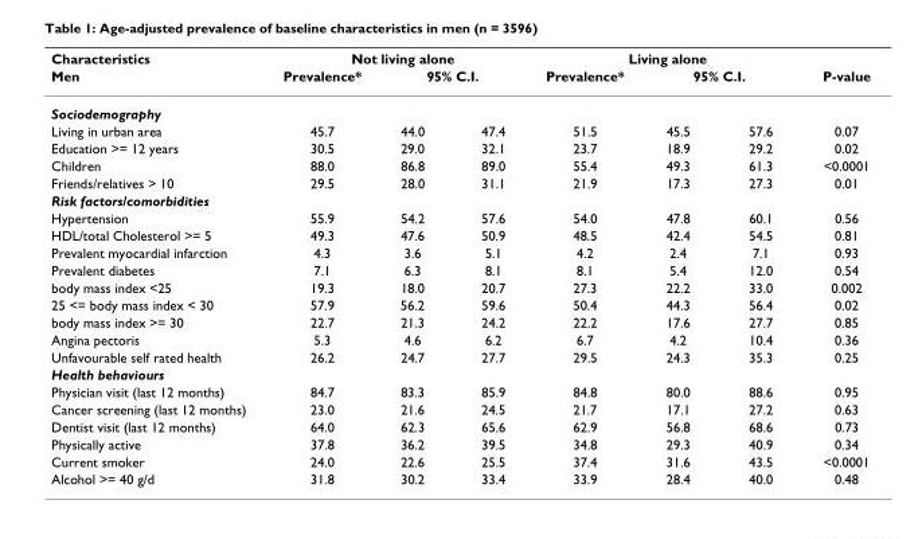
<table><thead><tr><td rowspan="3">Characteristics Men Sociodemography</td><td colspan="3">Not living alone</td><td colspan="3">Living alone</td><td rowspan="3">P-value</td></tr><tr><td rowspan="2">Prevalence*</td><td colspan="2">95% C.I.</td><td rowspan="2">Prevalence*</td><td colspan="2">95% C.I.</td></tr><tr><td></td><td></td><td></td><td></td></tr></thead><tbody><tr><td>Living in urban area</td><td>45.7</td><td>44.0</td><td>47.4</td><td>51.5</td><td>45.5</td><td>57.6</td><td>0.07</td></tr><tr><td>Education &gt;= 12 years</td><td>30.5</td><td>29.0</td><td>32.1</td><td>23.7</td><td>18.9</td><td>29.2</td><td>0.02</td></tr><tr><td>Children</td><td>88.0</td><td>86.8</td><td>89.0</td><td>55.4</td><td>49.3</td><td>61.3</td><td>&lt;0.0001</td></tr><tr><td>Friends/relatives &gt; 10</td><td>29.5</td><td>28.0</td><td>31.1</td><td>21.9</td><td>17.3</td><td>27.3</td><td>0.01</td></tr><tr><td colspan="8">Risk factors/comorbidities</td></tr><tr><td>Hypertension</td><td>55.9</td><td>54.2</td><td>57.6</td><td>54.0</td><td>47.8</td><td>60.1</td><td>0.56</td></tr><tr><td>HDL/total Cholesterol &gt;= 5</td><td>49.3</td><td>47.6</td><td>50.9</td><td>48.5</td><td>42.4</td><td>54.5</td><td>0.81</td></tr><tr><td>Prevalent myocardial infarction</td><td>4.3</td><td>3.6</td><td>5.1</td><td>4.2</td><td>2.4</td><td>7.1</td><td>0.93</td></tr><tr><td>Prevalent diabetes</td><td>7.1</td><td>6.3</td><td>8.1</td><td>8.1</td><td>5.4</td><td>12.0</td><td>0.54</td></tr><tr><td>body mass index &lt;25</td><td>19.3</td><td>18.0</td><td>20.7</td><td>27.3</td><td>22.2</td><td>33.0</td><td>0.002</td></tr><tr><td>25 &lt;= body mass index &lt; 30</td><td>57.9</td><td>56.2</td><td>59.6</td><td>50.4</td><td>44.3</td><td>56.4</td><td>0.02</td></tr><tr><td>body mass index &gt;= 30</td><td>22.7</td><td>21.3</td><td>24.2</td><td>22.2</td><td>17.6</td><td>27.7</td><td>0.85</td></tr><tr><td>Angina pectoris</td><td>5.3</td><td>4.6</td><td>6.2</td><td>6.7</td><td>4.2</td><td>10.4</td><td>0.36</td></tr><tr><td>Unfavourable self rated health</td><td>26.2</td><td>24.7</td><td>27.7</td><td>29.5</td><td>24.3</td><td>35.3</td><td>0.25</td></tr><tr><td colspan="8">Health behaviours</td></tr><tr><td>Physician visit (last 12 months)</td><td>84.7</td><td>83.3</td><td>85.9</td><td>84.8</td><td>80.0</td><td>88.6</td><td>0.95</td></tr><tr><td>Cancer screening (last 12 months)</td><td>23.0</td><td>21.6</td><td>24.5</td><td>21.7</td><td>17.1</td><td>27.2</td><td>0.63</td></tr><tr><td>Dentist visit (last 12 months)</td><td>64.0</td><td>62.3</td><td>65.6</td><td>62.9</td><td>56.8</td><td>68.6</td><td>0.73</td></tr><tr><td>Physically active</td><td>37.8</td><td>36.2</td><td>39.5</td><td>34.8</td><td>29.3</td><td>40.9</td><td>0.34</td></tr><tr><td>Current smoker</td><td>24.0</td><td>22.6</td><td>25.5</td><td>37.4</td><td>31.6</td><td>43.5</td><td>&lt;0.0001</td></tr><tr><td>Alcohol &gt;= 40 g/d</td><td>31.8</td><td>30.2</td><td>33.4</td><td>33.9</td><td>28.4</td><td>40.0</td><td>0.48</td></tr></tbody></table>